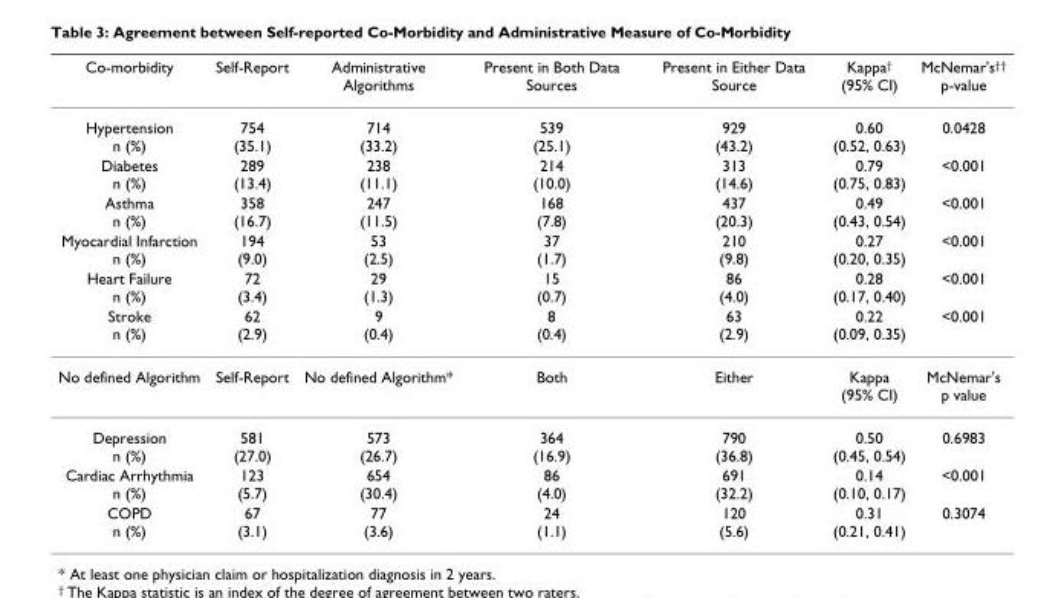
<table><thead><tr><td>Co-morbidity</td><td>Self-Report</td><td>Administrative Algorithms</td><td>Present in Both Data Sources</td><td>Present in Either Data Source</td><td>Kappa<sup>†</sup> (95% CI)</td><td>McNemar&#x27;s<sup>††</sup> p-value</td></tr></thead><tbody><tr><td>Hypertension n (%)</td><td>754 (35.1)</td><td>714 (33.2)</td><td>539 (25.1)</td><td>929 (43.2)</td><td>0.60 (0.52, 0.63)</td><td>0.0428</td></tr><tr><td>Diabetes n (%)</td><td>289 (13.4)</td><td>238 (11.1)</td><td>214 (10.0)</td><td>313 (14.6)</td><td>0.79 (0.75, 0.83)</td><td>&lt;0.001</td></tr><tr><td>Asthma n (%)</td><td>358 (16.7)</td><td>247 (11.5)</td><td>168 (7.8)</td><td>437 (20.3)</td><td>0.49 (0.43, 0.54)</td><td>&lt;0.001</td></tr><tr><td>Myocardial Infarction n (%)</td><td>194 (9.0)</td><td>53 (2.5)</td><td>37 (1.7)</td><td>210 (9.8)</td><td>0.27 (0.20, 0.35)</td><td>&lt;0.001</td></tr><tr><td>Heart Failure n (%)</td><td>72 (3.4)</td><td>29 (1.3)</td><td>15 (0.7)</td><td>86 (4.0)</td><td>0.28 (0.17, 0.40)</td><td>&lt;0.001</td></tr><tr><td>Stroke n (%)</td><td>62 (2.9)</td><td>9 (0.4)</td><td>8 (0.4)</td><td>63 (2.9)</td><td>0.22 (0.09, 0.35)</td><td>&lt;0.001</td></tr><tr><td>No defined Algorithm</td><td>Self-Report</td><td>No defined Algorithm*</td><td>Both</td><td>Either</td><td>Kappa (95% CI)</td><td>McNemar&#x27;s p value</td></tr><tr><td>Depression n (%)</td><td>581 (27.0)</td><td>573 (26.7)</td><td>364 (16.9)</td><td>790 (36.8)</td><td>0.50 (0.45, 0.54)</td><td>0.6983</td></tr><tr><td>Cardiac Arrhythmia n (%)</td><td>123 (5.7)</td><td>654 (30.4)</td><td>86 (4.0)</td><td>691 (32.2)</td><td>0.14 (0.10, 0.17)</td><td>&lt;0.001</td></tr><tr><td>COPD n (%)</td><td>67 (3.1)</td><td>77 (3.6)</td><td>24 (1.1)</td><td>120 (5.6)</td><td>0.31 (0.21, 0.41)</td><td>0.3074</td></tr></tbody></table>